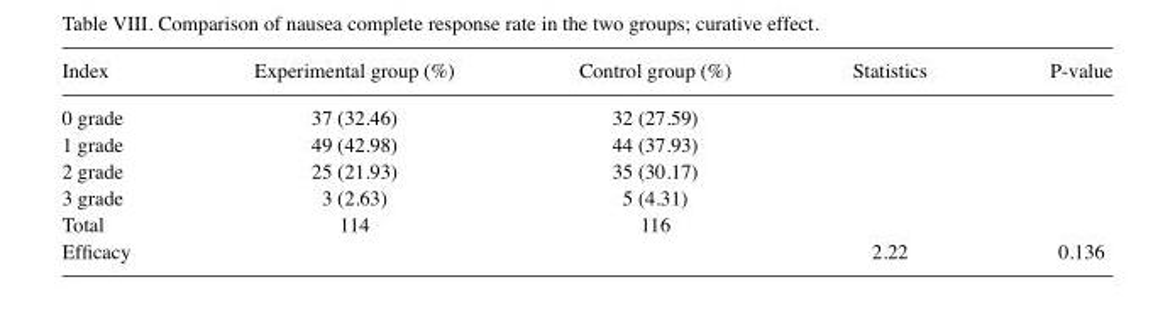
<table><thead><tr><td>Index</td><td>Experimental group (%)</td><td>Control group (%)</td><td>Statistics</td><td>P-value</td></tr></thead><tbody><tr><td>0 grade</td><td>37 (32.46)</td><td>32 (27.59)</td><td></td><td></td></tr><tr><td>1 grade</td><td>49 (42.98)</td><td>44 (37.93)</td><td></td><td></td></tr><tr><td>2 grade</td><td>25 (21.93)</td><td>35 (30.17)</td><td></td><td></td></tr><tr><td>3 grade</td><td>3 (2.63)</td><td>5 (4.31)</td><td></td><td></td></tr><tr><td>Total</td><td>114</td><td>116</td><td></td><td></td></tr><tr><td>Efficacy</td><td></td><td></td><td>2.22</td><td>0.136</td></tr></tbody></table>